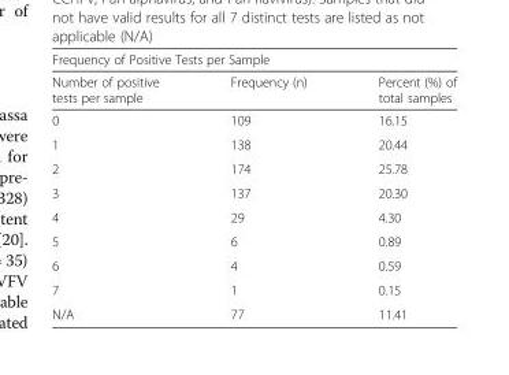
<table><thead><tr><td colspan="3">Frequency of Positive Tests per Sample</td></tr><tr><td>Number of positive tests per sample</td><td>Frequency (n)</td><td>Percent (%) of total samples</td></tr></thead><tbody><tr><td>0</td><td>109</td><td>16.15</td></tr><tr><td>1</td><td>138</td><td>20.44</td></tr><tr><td>2</td><td>174</td><td>25.78</td></tr><tr><td>3</td><td>137</td><td>20.30</td></tr><tr><td>4</td><td>29</td><td>4.30</td></tr><tr><td>5</td><td>6</td><td>0.89</td></tr><tr><td>6</td><td>4</td><td>0.59</td></tr><tr><td>7</td><td>1</td><td>0.15</td></tr><tr><td>N/A</td><td>77</td><td>11.41</td></tr></tbody></table>